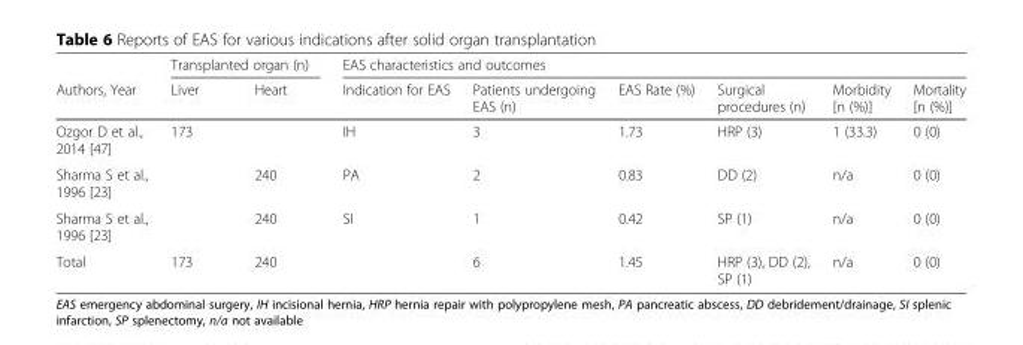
<table><thead><tr><td rowspan="2">Authors, Year</td><td colspan="2">Transplanted organ (n)</td><td colspan="6">EAS characteristics and outcomes</td></tr><tr><td>Liver</td><td>Heart</td><td>Indication for EAS</td><td>Patients undergoing EAS (n)</td><td>EAS Rate (%)</td><td>Surgical procedures (n)</td><td>Morbidity [n (%)]</td><td>Mortality [n (%)]</td></tr></thead><tbody><tr><td>Ozgor D et al., 2014 [47]</td><td>173</td><td></td><td>IH</td><td>3</td><td>1.73</td><td>HRP (3)</td><td>1 (33.3)</td><td>0 (0)</td></tr><tr><td>Sharma S et al., 1996 [23]</td><td></td><td>240</td><td>PA</td><td>2</td><td>0.83</td><td>DD (2)</td><td>n/a</td><td>0 (0)</td></tr><tr><td>Sharma S et al., 1996 [23]</td><td></td><td>240</td><td>SI</td><td>1</td><td>0.42</td><td>SP (1)</td><td>n/a</td><td>0 (0)</td></tr><tr><td>Total</td><td>173</td><td>240</td><td></td><td>6</td><td>1.45</td><td>HRP (3), DD (2), SP (1)</td><td>n/a</td><td>0 (0)</td></tr></tbody></table>